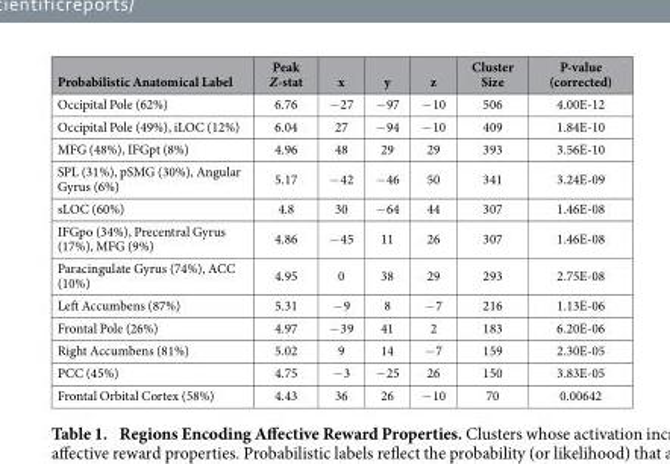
<table><thead><tr><td>Probabilistic Anatomical Label</td><td>Peak Z-stat</td><td>x</td><td>y</td><td>z</td><td>Cluster Size</td><td>P-value (corrected)</td></tr></thead><tbody><tr><td>Occipital Pole (62%)</td><td>6.76</td><td>− 27</td><td>− 97</td><td>− 10</td><td>506</td><td>4.00E-12</td></tr><tr><td>Occipital Pole (49%), iLOC (12%)</td><td>6.04</td><td>27</td><td>− 94</td><td>− 10</td><td>409</td><td>1.84E-10</td></tr><tr><td>MFG (48%), IFGpt (8%)</td><td>4.96</td><td>48</td><td>29</td><td>29</td><td>393</td><td>3.56E-10</td></tr><tr><td>SPL (31%), pSMG (30%), Angular Gyrus (6%)</td><td>5.17</td><td>− 42</td><td>− 46</td><td>50</td><td>341</td><td>3.24E-09</td></tr><tr><td>sLOC (60%)</td><td>4.8</td><td>30</td><td>− 64</td><td>44</td><td>307</td><td>1.46E-08</td></tr><tr><td>IFGpo (34%), Precentral Gyrus (17%), MFG (9%)</td><td>4.86</td><td>− 45</td><td>11</td><td>26</td><td>307</td><td>1.46E-08</td></tr><tr><td>Paracingulate Gyrus (74%), ACC (10%)</td><td>4.95</td><td>0</td><td>38</td><td>29</td><td>293</td><td>2.75E-08</td></tr><tr><td>Left Accumbens (87%)</td><td>5.31</td><td>− 9</td><td>8</td><td>− 7</td><td>216</td><td>1.13E-06</td></tr><tr><td>Frontal Pole (26%)</td><td>4.97</td><td>− 39</td><td>41</td><td>2</td><td>183</td><td>6.20E-06</td></tr><tr><td>Right Accumbens (81%)</td><td>5.02</td><td>9</td><td>14</td><td>− 7</td><td>159</td><td>2.30E-05</td></tr><tr><td>PCC (45%)</td><td>4.75</td><td>− 3</td><td>− 25</td><td>26</td><td>150</td><td>3.83E-05</td></tr><tr><td>Frontal Orbital Cortex (58%)</td><td>4.43</td><td>36</td><td>26</td><td>− 10</td><td>70</td><td>0.00642</td></tr></tbody></table>